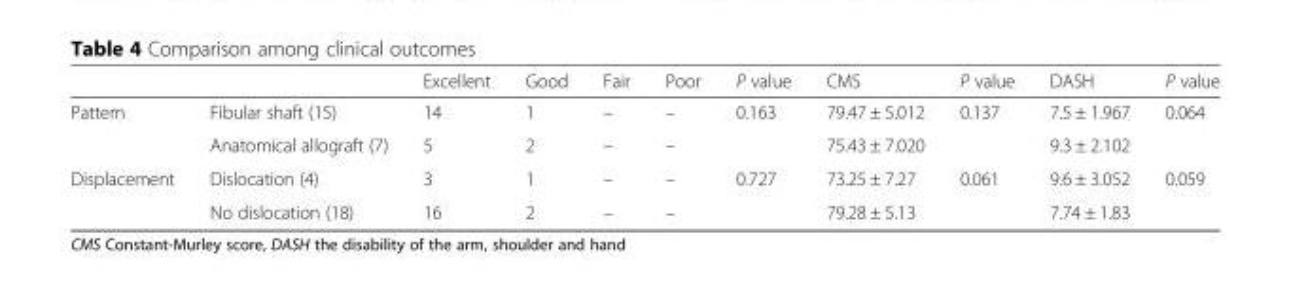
<table><thead><tr><td></td><td></td><td>Excellent</td><td>Good</td><td>Fair</td><td>Poor</td><td>P value</td><td>CMS</td><td>P value</td><td>DASH</td><td>P value</td></tr></thead><tbody><tr><td rowspan="2">Pattern</td><td>Fibular shaft (15)</td><td>14</td><td>1</td><td>–</td><td>–</td><td>0.163</td><td>79.47 ± 5.012</td><td>0.137</td><td>7.5 ± 1.967</td><td>0.064</td></tr><tr><td>Anatomical allograft (7)</td><td>5</td><td>2</td><td>–</td><td>–</td><td></td><td>75.43 ± 7.020</td><td></td><td>9.3 ± 2.102</td><td></td></tr><tr><td rowspan="2">Displacement</td><td>Dislocation (4)</td><td>3</td><td>1</td><td>–</td><td>–</td><td>0.727</td><td>73.25 ± 7.27</td><td>0.061</td><td>9.6 ± 3.052</td><td>0.059</td></tr><tr><td>No dislocation (18)</td><td>16</td><td>2</td><td>–</td><td>–</td><td></td><td>79.28 ± 5.13</td><td></td><td>7.74 ± 1.83</td><td></td></tr></tbody></table>